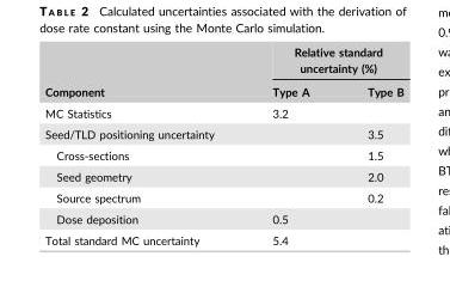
<table><thead><tr><td rowspan="2">Component</td><td colspan="2">Relative standard uncertainty (%)</td></tr><tr><td>Type A</td><td>Type B</td></tr></thead><tbody><tr><td>MC Statistics</td><td>3.2</td><td></td></tr><tr><td>Seed/TLD positioning uncertainty</td><td></td><td>3.5</td></tr><tr><td>Cross-sections</td><td></td><td>1.5</td></tr><tr><td>Seed geometry</td><td></td><td>2.0</td></tr><tr><td>Source spectrum</td><td></td><td>0.2</td></tr><tr><td>Dose deposition</td><td>0.5</td><td></td></tr><tr><td>Total standard MC uncertainty</td><td>5.4</td><td></td></tr></tbody></table>